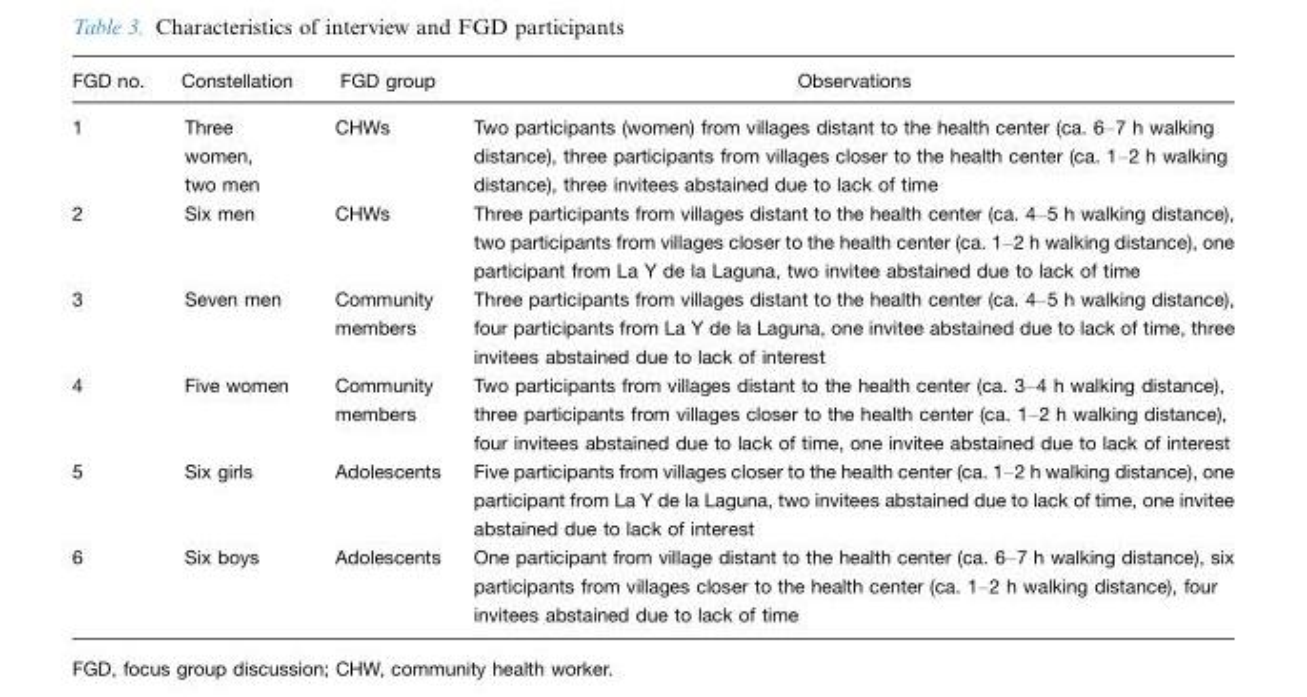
<table><thead><tr><td>FGD no.</td><td>Constellation</td><td>FGD group</td><td>Observations</td></tr></thead><tbody><tr><td>1</td><td>Three women, two men</td><td>CHWs</td><td>Two participants (women) from villages distant to the health center (ca. 6–7 h walking distance), three participants from villages closer to the health center (ca. 1–2 h walking distance), three invitees abstained due to lack of time</td></tr><tr><td>2</td><td>Six men</td><td>CHWs</td><td>Three participants from villages distant to the health center (ca. 4–5 h walking distance), two participants from villages closer to the health center (ca. 1–2 h walking distance), one participant from La Y de la Laguna, two invitee abstained due to lack of time</td></tr><tr><td>3</td><td>Seven men</td><td>Community members</td><td>Three participants from villages distant to the health center (ca. 4–5 h walking distance), four participants from La Y de la Laguna, one invitee abstained due to lack of time, three invitees abstained due to lack of interest</td></tr><tr><td>4</td><td>Five women</td><td>Community members</td><td>Two participants from villages distant to the health center (ca. 3–4 h walking distance), three participants from villages closer to the health center (ca. 1–2 h walking distance), four invitees abstained due to lack of time, one invitee abstained due to lack of interest</td></tr><tr><td>5</td><td>Six girls</td><td>Adolescents</td><td>Five participants from villages closer to the health center (ca. 1–2 h walking distance), one participant from La Y de la Laguna, two invitees abstained due to lack of time, one invitee abstained due to lack of interest</td></tr><tr><td>6</td><td>Six boys</td><td>Adolescents</td><td>One participant from village distant to the health center (ca. 6–7 h walking distance), six participants from villages closer to the health center (ca. 1–2 h walking distance), four invitees abstained due to lack of time</td></tr></tbody></table>